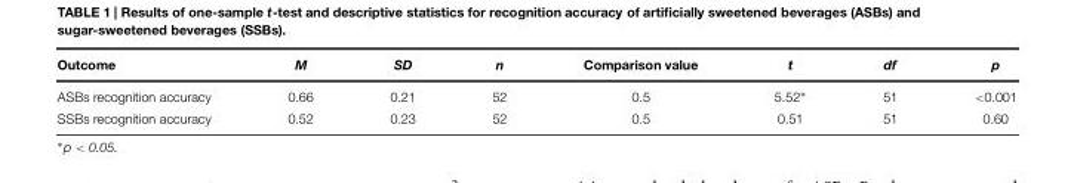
<table><thead><tr><td>Outcome</td><td>M</td><td>SD</td><td>n</td><td>Comparison value</td><td>t</td><td>df</td><td>p</td></tr></thead><tbody><tr><td>ASBs recognition accuracy</td><td>0.66</td><td>0.21</td><td>52</td><td>0.5</td><td>5.52∗</td><td>51</td><td>&lt;0.001</td></tr><tr><td>SSBs recognition accuracy</td><td>0.52</td><td>0.23</td><td>52</td><td>0.5</td><td>0.51</td><td>51</td><td>0.60</td></tr></tbody></table>